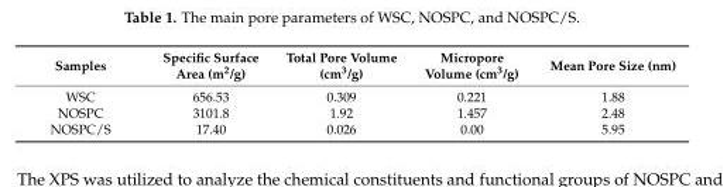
<table><thead><tr><td>Samples</td><td>Specific Surface Area (m<sup>2</sup>/g)</td><td>Total Pore Volume (cm<sup>3</sup>/g)</td><td>Micropore Volume (cm<sup>3</sup>/g)</td><td>Mean Pore Size (nm)</td></tr></thead><tbody><tr><td>WSC</td><td>656.53</td><td>0.309</td><td>0.221</td><td>1.88</td></tr><tr><td>NOSPC</td><td>3101.8</td><td>1.92</td><td>1.457</td><td>2.48</td></tr><tr><td>NOSPC/S</td><td>17.40</td><td>0.026</td><td>0.00</td><td>5.95</td></tr></tbody></table>